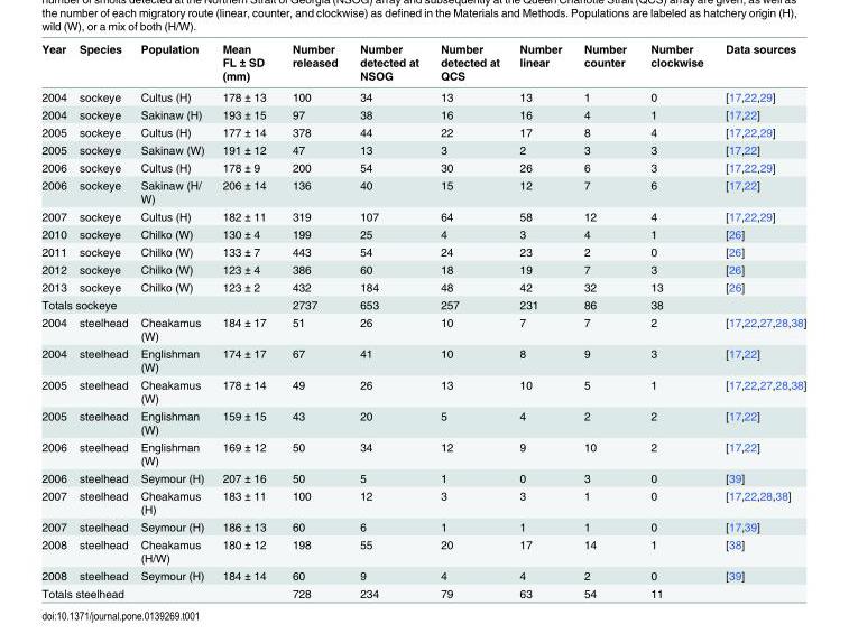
<table><thead><tr><td>Year</td><td>Species</td><td>Population</td><td>Mean FL ± SD (mm)</td><td>Number released</td><td>Number detected at NSOG</td><td>Number detected at QCS</td><td>Number linear</td><td>Number counter</td><td>Number clockwise</td><td>Data sources</td></tr></thead><tbody><tr><td>2004</td><td>sockeye</td><td>Cultus (H)</td><td>178 ± 13</td><td>100</td><td>34</td><td>13</td><td>13</td><td>1</td><td>0</td><td>[17,22,29]</td></tr><tr><td>2004</td><td>sockeye</td><td>Sakinaw (H)</td><td>193 ± 15</td><td>97</td><td>38</td><td>16</td><td>16</td><td>4</td><td>1</td><td>[17,22]</td></tr><tr><td>2005</td><td>sockeye</td><td>Cultus (H)</td><td>177 ± 14</td><td>378</td><td>44</td><td>22</td><td>17</td><td>8</td><td>4</td><td>[17,22,29]</td></tr><tr><td>2005</td><td>sockeye</td><td>Sakinaw (W)</td><td>191 ± 12</td><td>47</td><td>13</td><td>3</td><td>2</td><td>3</td><td>3</td><td>[17,22]</td></tr><tr><td>2006</td><td>sockeye</td><td>Cultus (H)</td><td>178 ± 9</td><td>200</td><td>54</td><td>30</td><td>26</td><td>6</td><td>3</td><td>[17,22,29]</td></tr><tr><td>2006</td><td>sockeye</td><td>Sakinaw (H/ W)</td><td>206 ± 14</td><td>136</td><td>40</td><td>15</td><td>12</td><td>7</td><td>6</td><td>[17,22]</td></tr><tr><td>2007</td><td>sockeye</td><td>Cultus (H)</td><td>182 ± 11</td><td>319</td><td>107</td><td>64</td><td>58</td><td>12</td><td>4</td><td>[17,22,29]</td></tr><tr><td>2010</td><td>sockeye</td><td>Chilko (W)</td><td>130 ± 4</td><td>199</td><td>25</td><td>4</td><td>3</td><td>4</td><td>1</td><td>[26]</td></tr><tr><td>2011</td><td>sockeye</td><td>Chilko (W)</td><td>133 ± 7</td><td>443</td><td>54</td><td>24</td><td>23</td><td>2</td><td>0</td><td>[26]</td></tr><tr><td>2012</td><td>sockeye</td><td>Chilko (W)</td><td>123 ± 4</td><td>386</td><td>60</td><td>18</td><td>19</td><td>7</td><td>3</td><td>[26]</td></tr><tr><td>2013</td><td>sockeye</td><td>Chilko (W)</td><td>123 ± 2</td><td>432</td><td>184</td><td>48</td><td>42</td><td>32</td><td>13</td><td>[26]</td></tr><tr><td colspan="2">Totals sockeye</td><td></td><td></td><td>2737</td><td>653</td><td>257</td><td>231</td><td>86</td><td>38</td><td></td></tr><tr><td>2004</td><td>steelhead</td><td>Cheakamus (W)</td><td>184 ± 17</td><td>51</td><td>26</td><td>10</td><td>7</td><td>7</td><td>2</td><td>[17,22,27,28,38]</td></tr><tr><td>2004</td><td>steelhead</td><td>Englishman (W)</td><td>174 ± 17</td><td>67</td><td>41</td><td>10</td><td>8</td><td>9</td><td>3</td><td>[17,22]</td></tr><tr><td>2005</td><td>steelhead</td><td>Cheakamus (W)</td><td>178 ± 14</td><td>49</td><td>26</td><td>13</td><td>10</td><td>5</td><td>1</td><td>[17,22,27,28,38]</td></tr><tr><td>2005</td><td>steelhead</td><td>Englishman (W)</td><td>159 ± 15</td><td>43</td><td>20</td><td>5</td><td>4</td><td>2</td><td>2</td><td>[17,22]</td></tr><tr><td>2006</td><td>steelhead</td><td>Englishman (W)</td><td>169 ± 12</td><td>50</td><td>34</td><td>12</td><td>9</td><td>10</td><td>2</td><td>[17,22]</td></tr><tr><td>2006</td><td>steelhead</td><td>Seymour (H)</td><td>207 ± 16</td><td>50</td><td>5</td><td>1</td><td>0</td><td>3</td><td>0</td><td>[39]</td></tr><tr><td>2007</td><td>steelhead</td><td>Cheakamus (H)</td><td>183 ± 11</td><td>100</td><td>12</td><td>3</td><td>3</td><td>1</td><td>0</td><td>[17,22,28,38]</td></tr><tr><td>2007</td><td>steelhead</td><td>Seymour (H)</td><td>186 ± 13</td><td>60</td><td>6</td><td>1</td><td>1</td><td>1</td><td>0</td><td>[17,39]</td></tr><tr><td>2008</td><td>steelhead</td><td>Cheakamus (H/W)</td><td>180 ± 12</td><td>198</td><td>55</td><td>20</td><td>17</td><td>14</td><td>1</td><td>[38]</td></tr><tr><td>2008</td><td>steelhead</td><td>Seymour (H)</td><td>184 ± 14</td><td>60</td><td>9</td><td>4</td><td>4</td><td>2</td><td>0</td><td>[39]</td></tr><tr><td colspan="2">Totals steelhead</td><td></td><td></td><td>728</td><td>234</td><td>79</td><td>63</td><td>54</td><td>11</td><td></td></tr></tbody></table>